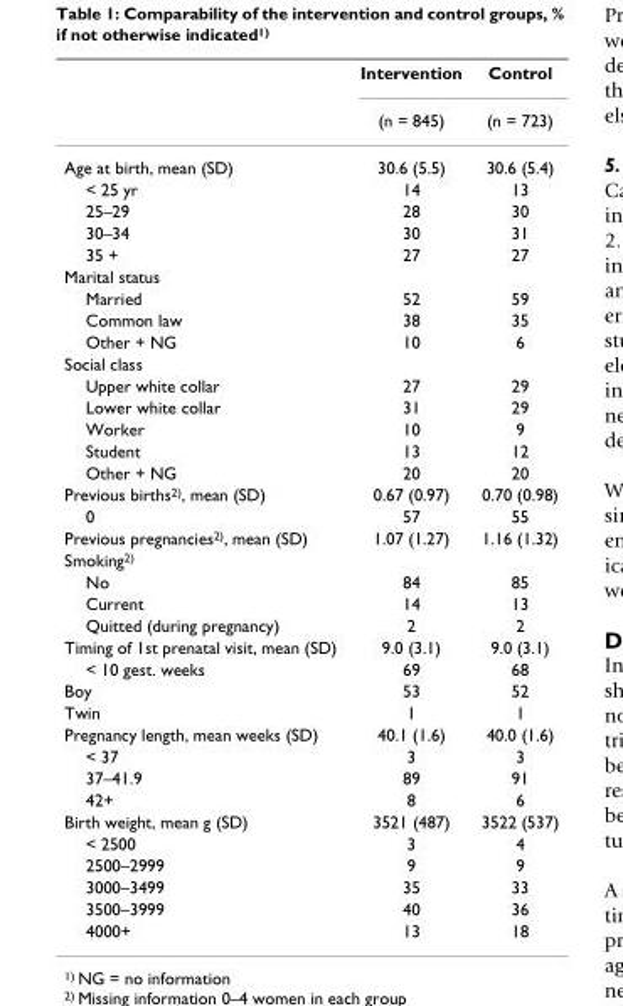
<table><thead><tr><td rowspan="2"></td><td rowspan="2">Intervention (n = 845)</td><td rowspan="2">Control (n = 723)</td></tr><tr></tr></thead><tbody><tr><td>Age at birth, mean (SD)</td><td>30.6 (5.5)</td><td>30.6 (5.4)</td></tr><tr><td>&lt; 25 yr</td><td>14</td><td>13</td></tr><tr><td>25–29</td><td>28</td><td>30</td></tr><tr><td>30–34</td><td>30</td><td>31</td></tr><tr><td>35 +</td><td>27</td><td>27</td></tr><tr><td colspan="3">Marital status</td></tr><tr><td>Married</td><td>52</td><td>59</td></tr><tr><td>Common law</td><td>38</td><td>35</td></tr><tr><td>Other + NG</td><td>10</td><td>6</td></tr><tr><td colspan="3">Social class</td></tr><tr><td>Upper white collar</td><td>27</td><td>29</td></tr><tr><td>Lower white collar</td><td>31</td><td>29</td></tr><tr><td>Worker</td><td>10</td><td>9</td></tr><tr><td>Student</td><td>13</td><td>12</td></tr><tr><td>Other + NG</td><td>20</td><td>20</td></tr><tr><td>Previous births<sup>2)</sup>, mean (SD)</td><td>0.67 (0.97)</td><td>0.70 (0.98)</td></tr><tr><td>0</td><td>57</td><td>55</td></tr><tr><td>Previous pregnancies<sup>2)</sup>, mean (SD)</td><td>1.07 (1.27)</td><td>1.16 (1.32)</td></tr><tr><td colspan="3">Smoking<sup>2)</sup></td></tr><tr><td>No</td><td>84</td><td>85</td></tr><tr><td>Current</td><td>14</td><td>13</td></tr><tr><td>Quitted (during pregnancy)</td><td>2</td><td>2</td></tr><tr><td>Timing of 1st prenatal visit, mean (SD)</td><td>9.0 (3.1)</td><td>9.0 (3.1)</td></tr><tr><td>&lt; 10 gest. weeks</td><td>69</td><td>68</td></tr><tr><td>Boy</td><td>53</td><td>52</td></tr><tr><td>Twin</td><td>1</td><td>1</td></tr><tr><td>Pregnancy length, mean weeks (SD)</td><td>40.1 (1.6)</td><td>40.0 (1.6)</td></tr><tr><td>&lt; 37</td><td>3</td><td>3</td></tr><tr><td>37–41.9</td><td>89</td><td>91</td></tr><tr><td>42+</td><td>8</td><td>6</td></tr><tr><td>Birth weight, mean g (SD)</td><td>3521 (487)</td><td>3522 (537)</td></tr><tr><td>&lt; 2500</td><td>3</td><td>4</td></tr><tr><td>2500–2999</td><td>9</td><td>9</td></tr><tr><td>3000–3499</td><td>35</td><td>33</td></tr><tr><td>3500–3999</td><td>40</td><td>36</td></tr><tr><td>4000+</td><td>13</td><td>18</td></tr></tbody></table>